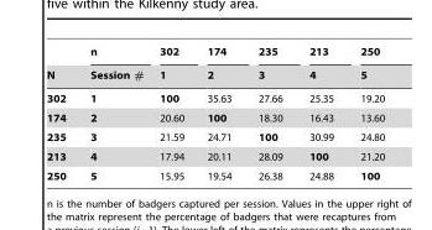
<table><thead><tr><td rowspan="2">N</td><td rowspan="2">n Session #</td><td rowspan="2">302 1</td><td rowspan="2">174 2</td><td rowspan="2">235 3</td><td rowspan="2">213 4</td><td rowspan="2">250 5</td></tr><tr></tr></thead><tbody><tr><td>302</td><td>1</td><td>100</td><td>35.63</td><td>27.66</td><td>25.35</td><td>19.20</td></tr><tr><td>174</td><td>2</td><td>20.60</td><td>100</td><td>18.30</td><td>16.43</td><td>13.60</td></tr><tr><td>235</td><td>3</td><td>21.59</td><td>24.71</td><td>100</td><td>30.99</td><td>24.80</td></tr><tr><td>213</td><td>4</td><td>17.94</td><td>20.11</td><td>28.09</td><td>100</td><td>21.20</td></tr><tr><td>250</td><td>5</td><td>15.95</td><td>19.54</td><td>26.38</td><td>24.88</td><td>100</td></tr></tbody></table>